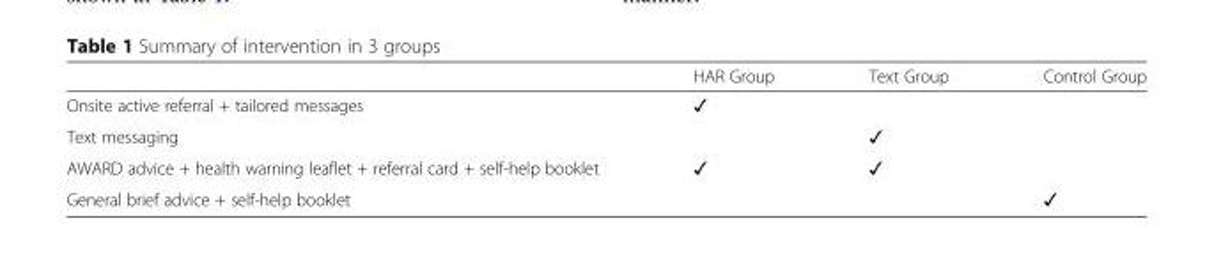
<table><thead><tr><td></td><td>HAR Group</td><td>Text Group</td><td>Control Group</td></tr></thead><tbody><tr><td>Onsite active referral + tailored messages</td><td>✓</td><td></td><td></td></tr><tr><td>Text messaging</td><td></td><td>✓</td><td></td></tr><tr><td>AWARD advice + health warning leaflet + referral card + self-help booklet</td><td>✓</td><td>✓</td><td></td></tr><tr><td>General brief advice + self-help booklet</td><td></td><td></td><td>✓</td></tr></tbody></table>